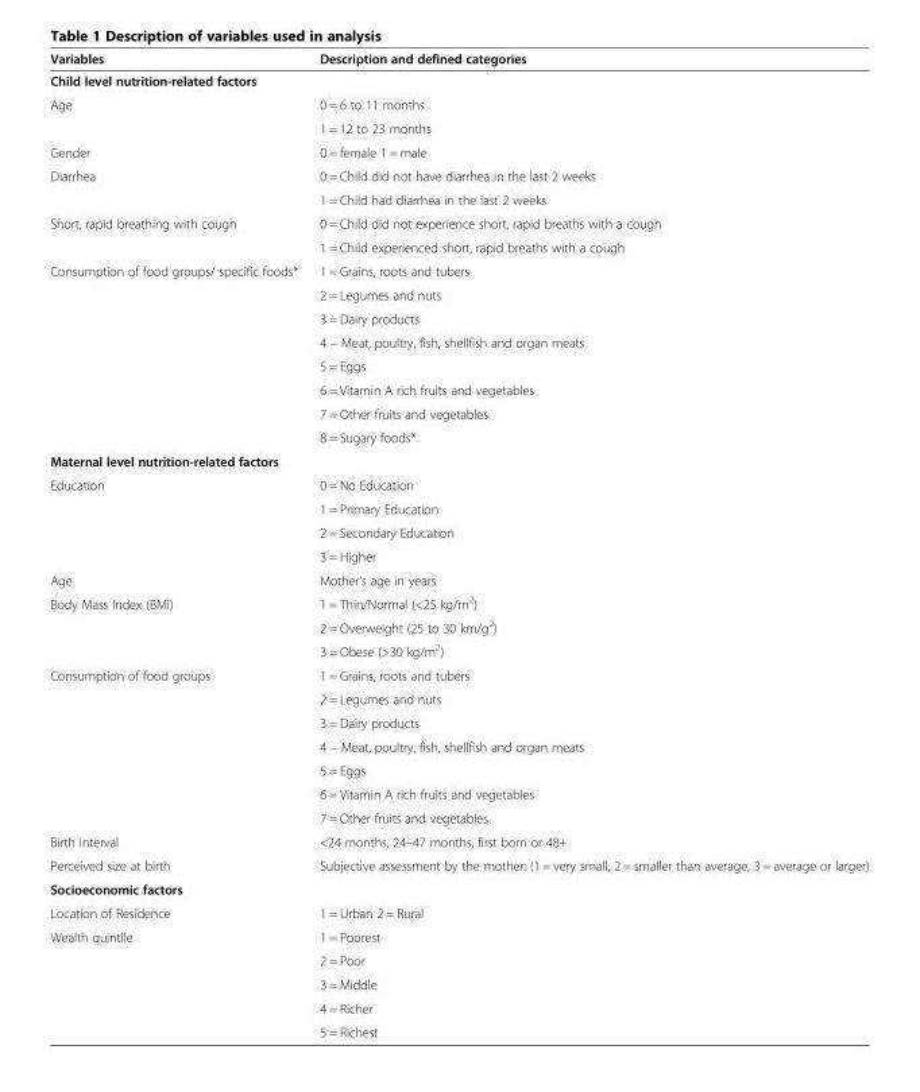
<table><thead><tr><td>Variables</td><td>Description and defined categories</td></tr></thead><tbody><tr><td colspan="2">Child level nutrition-related factors</td></tr><tr><td rowspan="2">Age</td><td>0 = 6 to 11 months</td></tr><tr><td>1 = 12 to 23 months</td></tr><tr><td>Gender</td><td>0 = female 1 = male</td></tr><tr><td rowspan="2">Diarrhea</td><td>0 = Child did not have diarrhea in the last 2 weeks</td></tr><tr><td>1 = Child had diarrhea in the last 2 weeks</td></tr><tr><td rowspan="2">Short, rapid breathing with cough</td><td>0 = Child did not experience short, rapid breaths with a cough</td></tr><tr><td>1 = Child experienced short, rapid breaths with a cough</td></tr><tr><td rowspan="8">Consumption of food groups/ specific foods*</td><td>1 = Grains, roots and tubers</td></tr><tr><td>2 = Legumes and nuts</td></tr><tr><td>3 = Dairy products</td></tr><tr><td>4 – Meat, poultry, fish, shellfish and organ meats</td></tr><tr><td>5 = Eggs</td></tr><tr><td>6 = Vitamin A rich fruits and vegetables</td></tr><tr><td>7 = Other fruits and vegetables</td></tr><tr><td>8 = Sugary foods*</td></tr><tr><td colspan="2">Maternal level nutrition-related factors</td></tr><tr><td rowspan="4">Education</td><td>0 = No Education</td></tr><tr><td>1 = Primary Education</td></tr><tr><td>2 = Secondary Education</td></tr><tr><td>3 = Higher</td></tr><tr><td>Age</td><td>Mother’s age in years</td></tr><tr><td rowspan="3">Body Mass Index (BMI)</td><td>1 = Thin/Normal (&lt;25 kg/m<sup>2</sup>)</td></tr><tr><td>2 = Overweight (25 to 30 km/g<sup>2</sup>)</td></tr><tr><td>3 = Obese (&gt;30 kg/m<sup>2</sup>)</td></tr><tr><td rowspan="7">Consumption of food groups</td><td>1 = Grains, roots and tubers</td></tr><tr><td>2 = Legumes and nuts</td></tr><tr><td>3 = Dairy products</td></tr><tr><td>4 – Meat, poultry, fish, shellfish and organ meats</td></tr><tr><td>5 = Eggs</td></tr><tr><td>6 = Vitamin A rich fruits and vegetables</td></tr><tr><td>7 = Other fruits and vegetables</td></tr><tr><td>Birth interval</td><td>&lt;24 months, 24–47 months, first born or 48+</td></tr><tr><td>Perceived size at birth</td><td>Subjective assessment by the mother: (1 = very small, 2 = smaller than average, 3 = average or larger)</td></tr><tr><td colspan="2">Socioeconomic factors</td></tr><tr><td>Location of Residence</td><td>1 = Urban 2 = Rural</td></tr><tr><td rowspan="5">Wealth quintile</td><td>1 = Poorest</td></tr><tr><td>2 = Poor</td></tr><tr><td>3 = Middle</td></tr><tr><td>4 = Richer</td></tr><tr><td>5 = Richest</td></tr></tbody></table>